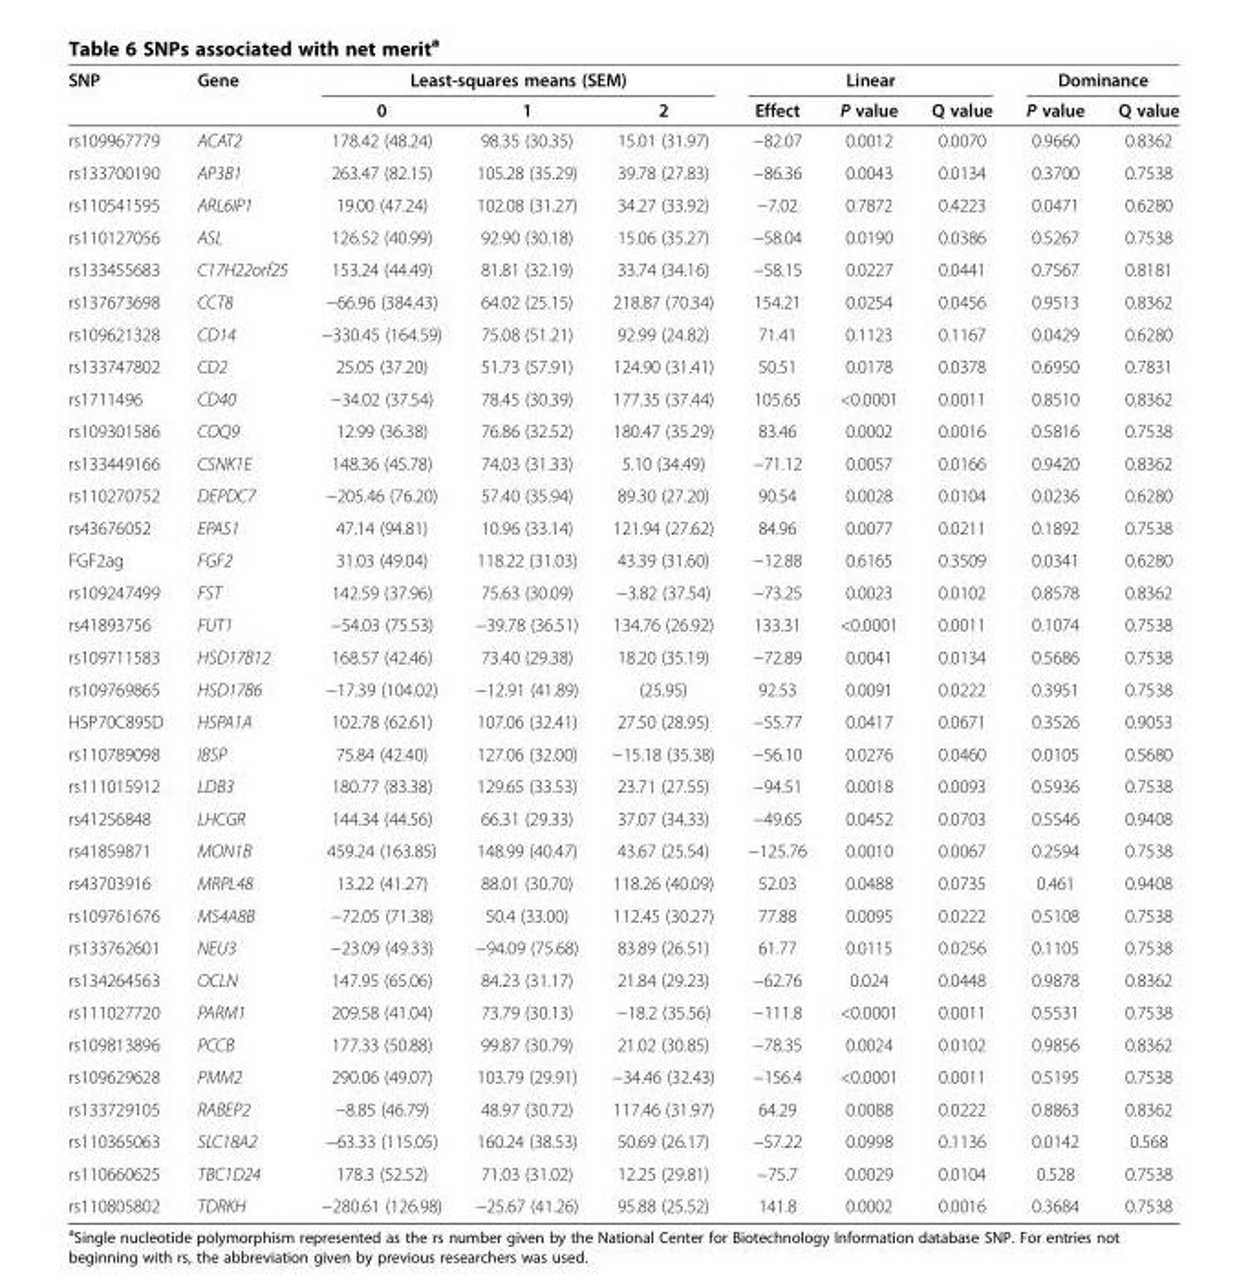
<table><thead><tr><td rowspan="2">SNP</td><td rowspan="2">Gene</td><td colspan="3">Least-squares means (SEM)</td><td colspan="3">Linear</td><td colspan="2">Dominance</td></tr><tr><td>0</td><td>1</td><td>2</td><td>Effect</td><td>P value</td><td>Q value</td><td>P value</td><td>Q value</td></tr></thead><tbody><tr><td>rs109967779</td><td>ACAT2</td><td>178.42 (48.24)</td><td>98.35 (30.35)</td><td>15.01 (31.97)</td><td>−82.07</td><td>0.0012</td><td>0.0070</td><td>0.9660</td><td>0.8362</td></tr><tr><td>rs133700190</td><td>AP3B1</td><td>263.47 (82.15)</td><td>105.28 (35.29)</td><td>39.78 (27.83)</td><td>−86.36</td><td>0.0043</td><td>0.0134</td><td>0.3700</td><td>0.7538</td></tr><tr><td>rs110541595</td><td>ARL6IP1</td><td>19.00 (47.24)</td><td>102.08 (31.27)</td><td>34.27 (33.92)</td><td>−7.02</td><td>0.7872</td><td>0.4223</td><td>0.0471</td><td>0.6280</td></tr><tr><td>rs110127056</td><td>ASL</td><td>126.52 (40.99)</td><td>92.90 (30.18)</td><td>15.06 (35.27)</td><td>−58.04</td><td>0.0190</td><td>0.0386</td><td>0.5267</td><td>0.7538</td></tr><tr><td>rs133455683</td><td>C17H22orf25</td><td>153.24 (44.49)</td><td>81.81 (32.19)</td><td>33.74 (34.16)</td><td>−58.15</td><td>0.0227</td><td>0.0441</td><td>0.7567</td><td>0.8181</td></tr><tr><td>rs137673698</td><td>CCT8</td><td>−66.96 (384.43)</td><td>64.02 (25.15)</td><td>218.87 (70.34)</td><td>154.21</td><td>0.0254</td><td>0.0456</td><td>0.9513</td><td>0.8362</td></tr><tr><td>rs109621328</td><td>CD14</td><td>−330.45 (164.59)</td><td>75.08 (51.21)</td><td>92.99 (24.82)</td><td>71.41</td><td>0.1123</td><td>0.1167</td><td>0.0429</td><td>0.6280</td></tr><tr><td>rs133747802</td><td>CD2</td><td>25.05 (37.20)</td><td>51.73 (57.91)</td><td>124.90 (31.41)</td><td>50.51</td><td>0.0178</td><td>0.0378</td><td>0.6950</td><td>0.7831</td></tr><tr><td>rs1711496</td><td>CD40</td><td>−34.02 (37.54)</td><td>78.45 (30.39)</td><td>177.35 (37.44)</td><td>105.65</td><td>&lt;0.0001</td><td>0.0011</td><td>0.8510</td><td>0.8362</td></tr><tr><td>rs109301586</td><td>COQ9</td><td>12.99 (36.38)</td><td>76.86 (32.52)</td><td>180.47 (35.29)</td><td>83.46</td><td>0.0002</td><td>0.0016</td><td>0.5816</td><td>0.7538</td></tr><tr><td>rs133449166</td><td>CSNK1E</td><td>148.36 (45.78)</td><td>74.03 (31.33)</td><td>5.10 (34.49)</td><td>−71.12</td><td>0.0057</td><td>0.0166</td><td>0.9420</td><td>0.8362</td></tr><tr><td>rs110270752</td><td>DEPDC7</td><td>−205.46 (76.20)</td><td>57.40 (35.94)</td><td>89.30 (27.20)</td><td>90.54</td><td>0.0028</td><td>0.0104</td><td>0.0236</td><td>0.6280</td></tr><tr><td>rs43676052</td><td>EPAS1</td><td>47.14 (94.81)</td><td>10.96 (33.14)</td><td>121.94 (27.62)</td><td>84.96</td><td>0.0077</td><td>0.0211</td><td>0.1892</td><td>0.7538</td></tr><tr><td>FGF2ag</td><td>FGF2</td><td>31.03 (49.04)</td><td>118.22 (31.03)</td><td>43.39 (31.60)</td><td>−12.88</td><td>0.6165</td><td>0.3509</td><td>0.0341</td><td>0.6280</td></tr><tr><td>rs109247499</td><td>FST</td><td>142.59 (37.96)</td><td>75.63 (30.09)</td><td>−3.82 (37.54)</td><td>−73.25</td><td>0.0023</td><td>0.0102</td><td>0.8578</td><td>0.8362</td></tr><tr><td>rs41893756</td><td>FUT1</td><td>−54.03 (75.53)</td><td>−39.78 (36.51)</td><td>134.76 (26.92)</td><td>133.31</td><td>&lt;0.0001</td><td>0.0011</td><td>0.1074</td><td>0.7538</td></tr><tr><td>rs109711583</td><td>HSD17B12</td><td>168.57 (42.46)</td><td>73.40 (29.38)</td><td>18.20 (35.19)</td><td>−72.89</td><td>0.0041</td><td>0.0134</td><td>0.5686</td><td>0.7538</td></tr><tr><td>rs109769865</td><td>HSD17B6</td><td>−17.39 (104.02)</td><td>−12.91 (41.89)</td><td>(25.95)</td><td>92.53</td><td>0.0091</td><td>0.0222</td><td>0.3951</td><td>0.7538</td></tr><tr><td>HSP70C895D</td><td>HSPA1A</td><td>102.78 (62.61)</td><td>107.06 (32.41)</td><td>27.50 (28.95)</td><td>−55.77</td><td>0.0417</td><td>0.0671</td><td>0.3526</td><td>0.9053</td></tr><tr><td>rs110789098</td><td>IBSP</td><td>75.84 (42.40)</td><td>127.06 (32.00)</td><td>−15.18 (35.38)</td><td>−56.10</td><td>0.0276</td><td>0.0460</td><td>0.0105</td><td>0.5680</td></tr><tr><td>rs111015912</td><td>LDB3</td><td>180.77 (83.38)</td><td>129.65 (33.53)</td><td>23.71 (27.55)</td><td>−94.51</td><td>0.0018</td><td>0.0093</td><td>0.5936</td><td>0.7538</td></tr><tr><td>rs41256848</td><td>LHCGR</td><td>144.34 (44.56)</td><td>66.31 (29.33)</td><td>37.07 (34.33)</td><td>−49.65</td><td>0.0452</td><td>0.0703</td><td>0.5546</td><td>0.9408</td></tr><tr><td>rs41859871</td><td>MON1B</td><td>459.24 (163.85)</td><td>148.99 (40.47)</td><td>43.67 (25.54)</td><td>−125.76</td><td>0.0010</td><td>0.0067</td><td>0.2594</td><td>0.7538</td></tr><tr><td>rs43703916</td><td>MRPL48</td><td>13.22 (41.27)</td><td>88.01 (30.70)</td><td>118.26 (40.09)</td><td>52.03</td><td>0.0488</td><td>0.0735</td><td>0.461</td><td>0.9408</td></tr><tr><td>rs109761676</td><td>MS4A8B</td><td>−72.05 (71.38)</td><td>50.4 (33.00)</td><td>112.45 (30.27)</td><td>77.88</td><td>0.0095</td><td>0.0222</td><td>0.5108</td><td>0.7538</td></tr><tr><td>rs133762601</td><td>NEU3</td><td>−23.09 (49.33)</td><td>−94.09 (75.68)</td><td>83.89 (26.51)</td><td>61.77</td><td>0.0115</td><td>0.0256</td><td>0.1105</td><td>0.7538</td></tr><tr><td>rs134264563</td><td>OCLN</td><td>147.95 (65.06)</td><td>84.23 (31.17)</td><td>21.84 (29.23)</td><td>−62.76</td><td>0.024</td><td>0.0448</td><td>0.9878</td><td>0.8362</td></tr><tr><td>rs111027720</td><td>PARM1</td><td>209.58 (41.04)</td><td>73.79 (30.13)</td><td>−18.2 (35.56)</td><td>−111.8</td><td>&lt;0.0001</td><td>0.0011</td><td>0.5531</td><td>0.7538</td></tr><tr><td>rs109813896</td><td>PCCB</td><td>177.33 (50.88)</td><td>99.87 (30.79)</td><td>21.02 (30.85)</td><td>−78.35</td><td>0.0024</td><td>0.0102</td><td>0.9856</td><td>0.8362</td></tr><tr><td>rs109629628</td><td>PMM2</td><td>290.06 (49.07)</td><td>103.79 (29.91)</td><td>−34.46 (32.43)</td><td>−156.4</td><td>&lt;0.0001</td><td>0.0011</td><td>0.5195</td><td>0.7538</td></tr><tr><td>rs133729105</td><td>RABEP2</td><td>−8.85 (46.79)</td><td>48.97 (30.72)</td><td>117.46 (31.97)</td><td>64.29</td><td>0.0088</td><td>0.0222</td><td>0.8863</td><td>0.8362</td></tr><tr><td>rs110365063</td><td>SLC18A2</td><td>−63.33 (115.05)</td><td>160.24 (38.53)</td><td>50.69 (26.17)</td><td>−57.22</td><td>0.0998</td><td>0.1136</td><td>0.0142</td><td>0.568</td></tr><tr><td>rs110660625</td><td>TBC1D24</td><td>178.3 (52.52)</td><td>71.03 (31.02)</td><td>12.25 (29.81)</td><td>−75.7</td><td>0.0029</td><td>0.0104</td><td>0.528</td><td>0.7538</td></tr><tr><td>rs110805802</td><td>TDRKH</td><td>−280.61 (126.98)</td><td>−25.67 (41.26)</td><td>95.88 (25.52)</td><td>141.8</td><td>0.0002</td><td>0.0016</td><td>0.3684</td><td>0.7538</td></tr></tbody></table>